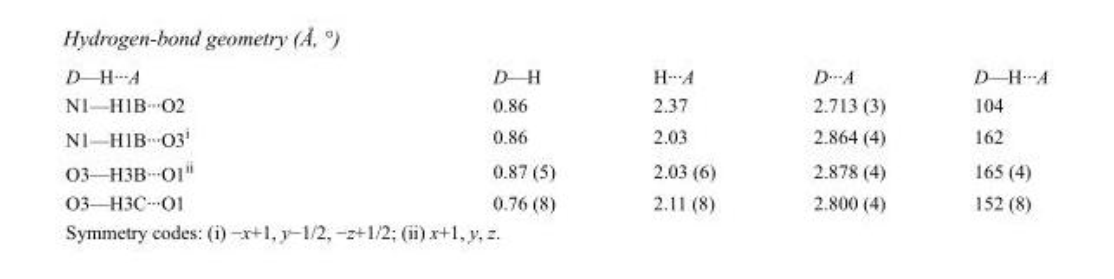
<table><tbody><tr><td>D—H···A</td><td>D—H</td><td>H···A</td><td>D···A</td><td>D—H···A</td></tr><tr><td>N1—H1B···O2</td><td>0.86</td><td>2.37</td><td>2.713 (3)</td><td>104</td></tr><tr><td>N1—H1B···O3<sup>i</sup></td><td>0.86</td><td>2.03</td><td>2.864 (4)</td><td>162</td></tr><tr><td>O3—H3B···O1<sup>ii</sup></td><td>0.87 (5)</td><td>2.03 (6)</td><td>2.878 (4)</td><td>165 (4)</td></tr><tr><td>O3—H3C···O1</td><td>0.76 (8)</td><td>2.11 (8)</td><td>2.800 (4)</td><td>152 (8)</td></tr></tbody></table>